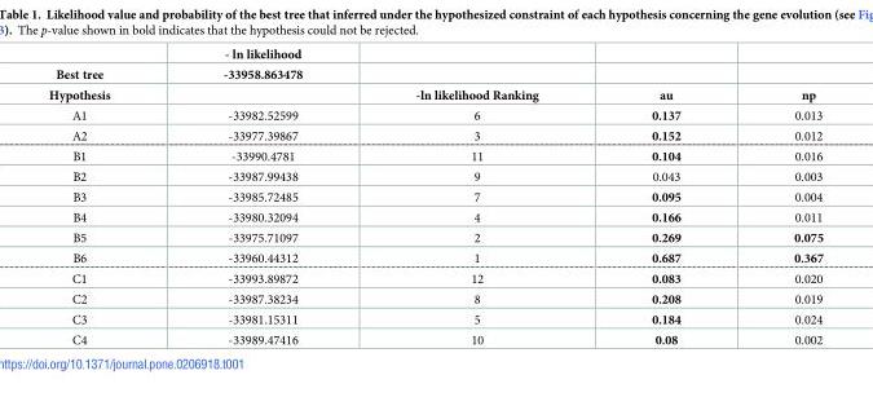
<table><thead><tr><td rowspan="3">Best tree Hypothesis</td><td rowspan="3">- ln likelihood -33958.863478</td><td rowspan="3">-ln likelihood Ranking</td><td rowspan="3">au</td><td rowspan="3">np</td></tr><tr></tr><tr></tr></thead><tbody><tr><td>A1</td><td>-33982.52599</td><td>6</td><td>0.137</td><td>0.013</td></tr><tr><td>A2</td><td>-33977.39867</td><td>3</td><td>0.152</td><td>0.012</td></tr><tr><td>B1</td><td>-33990.4781</td><td>11</td><td>0.104</td><td>0.016</td></tr><tr><td>B2</td><td>-33987.99438</td><td>9</td><td>0.043</td><td>0.003</td></tr><tr><td>B3</td><td>-33985.72485</td><td>7</td><td>0.095</td><td>0.004</td></tr><tr><td>B4</td><td>-33980.32094</td><td>4</td><td>0.166</td><td>0.011</td></tr><tr><td>B5</td><td>-33975.71097</td><td>2</td><td>0.269</td><td>0.075</td></tr><tr><td>B6</td><td>-33960.44312</td><td>1</td><td>0.687</td><td>0.367</td></tr><tr><td>C1</td><td>-33993.89872</td><td>12</td><td>0.083</td><td>0.020</td></tr><tr><td>C2</td><td>-33987.38234</td><td>8</td><td>0.208</td><td>0.019</td></tr><tr><td>C3</td><td>-33981.15311</td><td>5</td><td>0.184</td><td>0.024</td></tr><tr><td>C4</td><td>-33989.47416</td><td>10</td><td>0.08</td><td>0.002</td></tr></tbody></table>